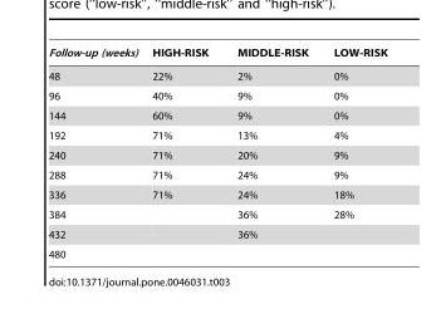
<table><thead><tr><td>Follow-up (weeks)</td><td>HIGH-RISK</td><td>MIDDLE-RISK</td><td>LOW-RISK</td></tr></thead><tbody><tr><td>48</td><td>22%</td><td>2%</td><td>0%</td></tr><tr><td>96</td><td>40%</td><td>9%</td><td>0%</td></tr><tr><td>144</td><td>60%</td><td>9%</td><td>0%</td></tr><tr><td>192</td><td>71%</td><td>13%</td><td>4%</td></tr><tr><td>240</td><td>71%</td><td>20%</td><td>9%</td></tr><tr><td>288</td><td>71%</td><td>24%</td><td>9%</td></tr><tr><td>336</td><td>71%</td><td>24%</td><td>18%</td></tr><tr><td>384</td><td></td><td>36%</td><td>28%</td></tr><tr><td>432</td><td></td><td>36%</td><td></td></tr><tr><td>480</td><td></td><td></td><td></td></tr></tbody></table>